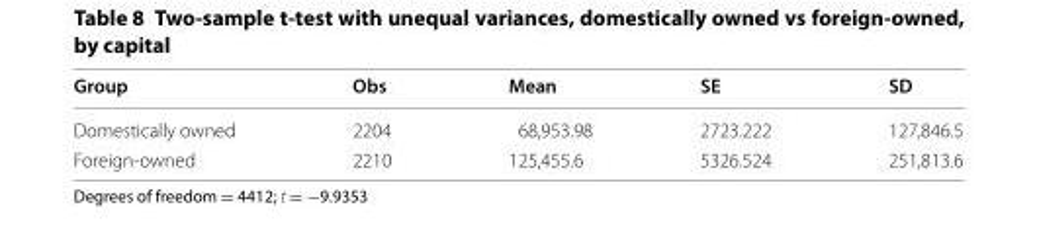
<table><thead><tr><td>Group</td><td>Obs</td><td>Mean</td><td>SE</td><td>SD</td></tr></thead><tbody><tr><td>Domestically owned</td><td>2204</td><td>68,953.98</td><td>2723.222</td><td>127,846.5</td></tr><tr><td>Foreign-owned</td><td>2210</td><td>125,455.6</td><td>5326.524</td><td>251,813.6</td></tr></tbody></table>